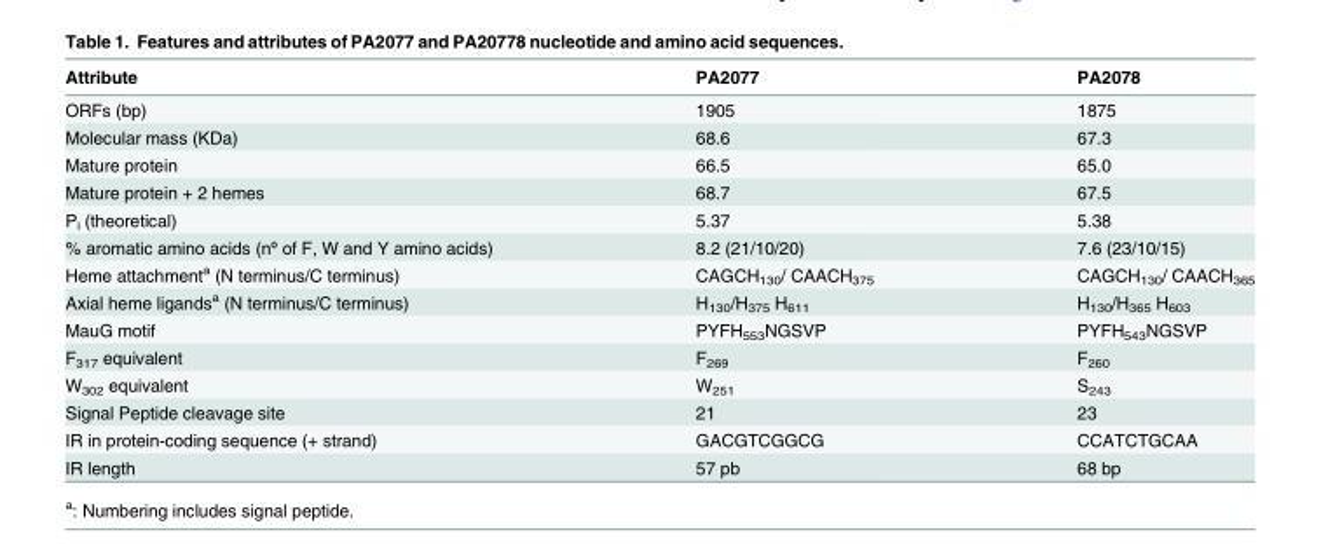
<table><thead><tr><td>Attribute</td><td>PA2077</td><td>PA2078</td></tr></thead><tbody><tr><td>ORFs (bp)</td><td>1905</td><td>1875</td></tr><tr><td>Molecular mass (KDa)</td><td>68.6</td><td>67.3</td></tr><tr><td>Mature protein</td><td>66.5</td><td>65.0</td></tr><tr><td>Mature protein + 2 hemes</td><td>68.7</td><td>67.5</td></tr><tr><td>P<sub>i</sub> (theoretical)</td><td>5.37</td><td>5.38</td></tr><tr><td>% aromatic amino acids (nº of F, W and Y amino acids)</td><td>8.2 (21/10/20)</td><td>7.6 (23/10/15)</td></tr><tr><td>Heme attachment<sup>a</sup> (N terminus/C terminus)</td><td>CAGCH<sub>130</sub>/ CAACH<sub>375</sub></td><td>CAGCH<sub>130</sub>/ CAACH<sub>365</sub></td></tr><tr><td>Axial heme ligands<sup>a</sup> (N terminus/C terminus)</td><td>H<sub>130</sub>/H<sub>375</sub> H<sub>611</sub></td><td>H<sub>130</sub>/H<sub>365</sub> H<sub>603</sub></td></tr><tr><td>MauG motif</td><td>PYFH<sub>553</sub>NGSVP</td><td>PYFH<sub>543</sub>NGSVP</td></tr><tr><td>F<sub>317</sub> equivalent</td><td>F<sub>269</sub></td><td>F<sub>260</sub></td></tr><tr><td>W<sub>302</sub> equivalent</td><td>W<sub>251</sub></td><td>S<sub>243</sub></td></tr><tr><td>Signal Peptide cleavage site</td><td>21</td><td>23</td></tr><tr><td>IR in protein-coding sequence (+ strand)</td><td>GACGTCGGCG</td><td>CCATCTGCAA</td></tr><tr><td>IR length</td><td>57 pb</td><td>68 bp</td></tr></tbody></table>